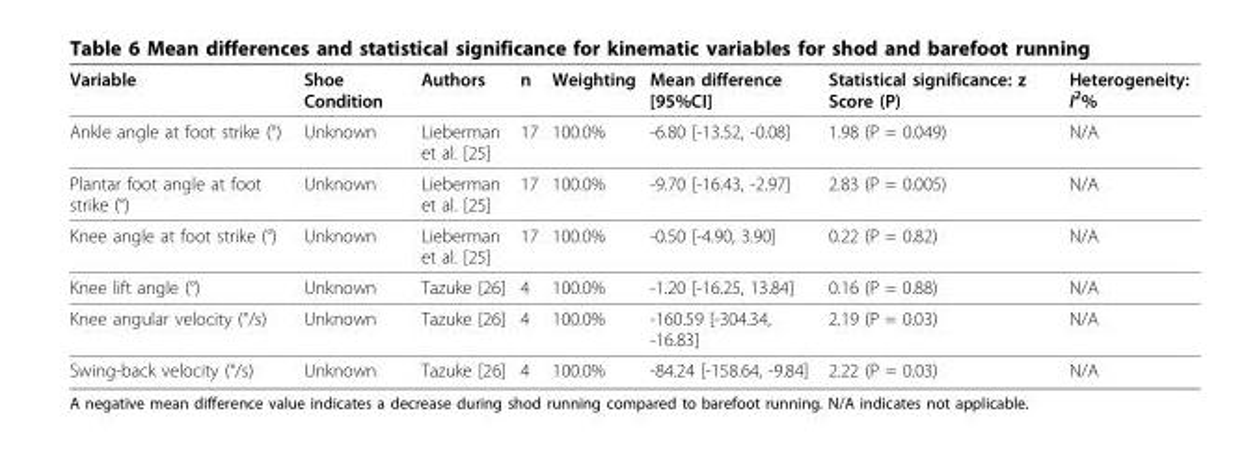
<table><thead><tr><td>Variable</td><td>Shoe Condition</td><td>Authors</td><td>n</td><td>Weighting</td><td>Mean difference [95%CI]</td><td>Statistical significance: z Score (P)</td><td>Heterogeneity: I<sup>2</sup>%</td></tr></thead><tbody><tr><td>Ankle angle at foot strike (°)</td><td>Unknown</td><td>Lieberman et al. [25]</td><td>17</td><td>100.0%</td><td>-6.80 [-13.52, -0.08]</td><td>1.98 (P = 0.049)</td><td>N/A</td></tr><tr><td>Plantar foot angle at foot strike (°)</td><td>Unknown</td><td>Lieberman et al. [25]</td><td>17</td><td>100.0%</td><td>-9.70 [-16.43, -2.97]</td><td>2.83 (P = 0.005)</td><td>N/A</td></tr><tr><td>Knee angle at foot strike (°)</td><td>Unknown</td><td>Lieberman et al. [25]</td><td>17</td><td>100.0%</td><td>-0.50 [-4.90, 3.90]</td><td>0.22 (P = 0.82)</td><td>N/A</td></tr><tr><td>Knee lift angle (°)</td><td>Unknown</td><td>Tazuke [26]</td><td>4</td><td>100.0%</td><td>-1.20 [-16.25, 13.84]</td><td>0.16 (P = 0.88)</td><td>N/A</td></tr><tr><td>Knee angular velocity (°/s)</td><td>Unknown</td><td>Tazuke [26]</td><td>4</td><td>100.0%</td><td>-160.59 [-304.34, -16.83]</td><td>2.19 (P = 0.03)</td><td>N/A</td></tr><tr><td>Swing-back velocity (°/s)</td><td>Unknown</td><td>Tazuke [26]</td><td>4</td><td>100.0%</td><td>-84.24 [-158.64, -9.84]</td><td>2.22 (P = 0.03)</td><td>N/A</td></tr></tbody></table>